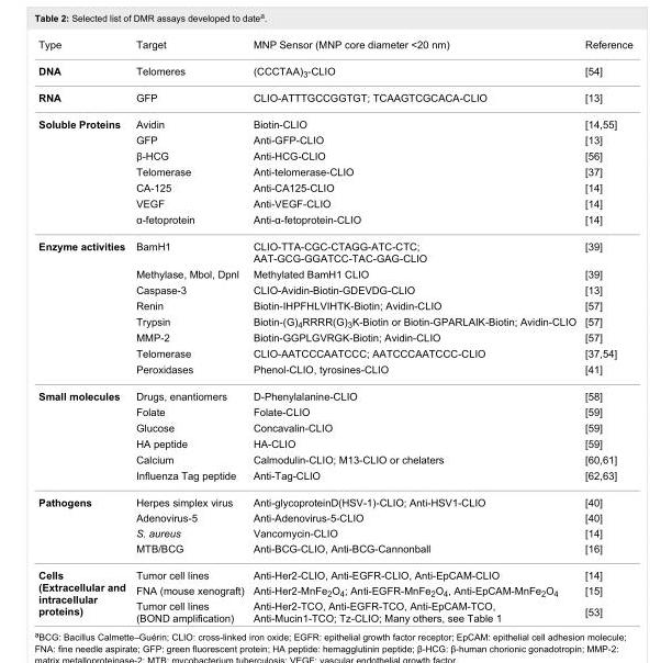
<table><tbody><tr><td>Type</td><td>Target</td><td>MNP Sensor (MNP core diameter &lt;20 nm)</td><td>Reference</td></tr><tr><td>DNA</td><td>Telomeres</td><td>(CCCTAA)<sub>3</sub>-CLIO</td><td>[54]</td></tr><tr><td>RNA</td><td>GFP</td><td>CLIO-ATTTGCCGGTGT; TCAAGTCGCACA-CLIO</td><td>[13]</td></tr><tr><td rowspan="7">Soluble Proteins</td><td>Avidin</td><td>Biotin-CLIO</td><td>[14,55]</td></tr><tr><td>GFP</td><td>Anti-GFP-CLIO</td><td>[13]</td></tr><tr><td>β-HCG</td><td>Anti-HCG-CLIO</td><td>[56]</td></tr><tr><td>Telomerase</td><td>Anti-telomerase-CLIO</td><td>[37]</td></tr><tr><td>CA-125</td><td>Anti-CA125-CLIO</td><td>[14]</td></tr><tr><td>VEGF</td><td>Anti-VEGF-CLIO</td><td>[14]</td></tr><tr><td>α-fetoprotein</td><td>Anti-α-fetoprotein-CLIO</td><td>[14]</td></tr><tr><td rowspan="8">Enzyme activities</td><td>BamH1</td><td>CLIO-TTA-CGC-CTAGG-ATC-CTC; AAT-GCG-GGATCC-TAC-GAG-CLIO</td><td>[39]</td></tr><tr><td>Methylase, Mbol, Dpnl</td><td>Methylated BamH1 CLIO</td><td>[39]</td></tr><tr><td>Caspase-3</td><td>CLIO-Avidin-Biotin-GDEVDG-CLIO</td><td>[13]</td></tr><tr><td>Renin</td><td>Biotin-IHPFHLVIHTK-Biotin; Avidin-CLIO</td><td>[57]</td></tr><tr><td>Trypsin</td><td>Biotin-(G)<sub>4</sub>RRRR(G)<sub>3</sub>K-Biotin or Biotin-GPARLAIK-Biotin; Avidin-CLIO</td><td>[57]</td></tr><tr><td>MMP-2</td><td>Biotin-GGPLGVRGK-Biotin; Avidin-CLIO</td><td>[57]</td></tr><tr><td>Telomerase</td><td>CLIO-AATCCCAATCCC; AATCCCAATCCC-CLIO</td><td>[37,54]</td></tr><tr><td>Peroxidases</td><td>Phenol-CLIO, tyrosines-CLIO</td><td>[41]</td></tr><tr><td rowspan="6">Small molecules</td><td>Drugs, enantiomers</td><td>D-Phenylalanine-CLIO</td><td>[58]</td></tr><tr><td>Folate</td><td>Folate-CLIO</td><td>[59]</td></tr><tr><td>Glucose</td><td>Concavalin-CLIO</td><td>[59]</td></tr><tr><td>HA peptide</td><td>HA-CLIO</td><td>[59]</td></tr><tr><td>Calcium</td><td>Calmodulin-CLIO; M13-CLIO or chelaters</td><td>[60–61]</td></tr><tr><td>Influenza Tag peptide</td><td>Anti-Tag-CLIO</td><td>[62–63]</td></tr><tr><td rowspan="4">Pathogens</td><td>Herpes simplex virus</td><td>Anti-glycoproteinD(HSV-1)-CLIO; Anti-HSV1-CLIO</td><td>[40]</td></tr><tr><td>Adenovirus-5</td><td>Anti-Adenovirus-5-CLIO</td><td>[40]</td></tr><tr><td>S. aureus</td><td>Vancomycin-CLIO</td><td>[14]</td></tr><tr><td>MTB/BCG</td><td>Anti-BCG-CLIO, Anti-BCG-Cannonball</td><td>[16]</td></tr><tr><td rowspan="3">Cells (Extracellular and intracellular proteins)</td><td>Tumor cell lines</td><td>Anti-Her2-CLIO, Anti-EGFR-CLIO, Anti-EpCAM-CLIO</td><td>[14]</td></tr><tr><td>FNA (mouse xenograft)</td><td>Anti-Her2-MnFe<sub>2</sub>O<sub>4</sub>; Anti-EGFR-MnFe<sub>2</sub>O<sub>4</sub>, Anti-EpCAM-MnFe<sub>2</sub>O<sub>4</sub></td><td>[15]</td></tr><tr><td>Tumor cell lines (BOND amplification)</td><td>Anti-Her2-TCO, Anti-EGFR-TCO, Anti-EpCAM-TCO, Anti-Mucin1-TCO; Tz-CLIO; Many others, see Table 1</td><td>[53]</td></tr></tbody></table>